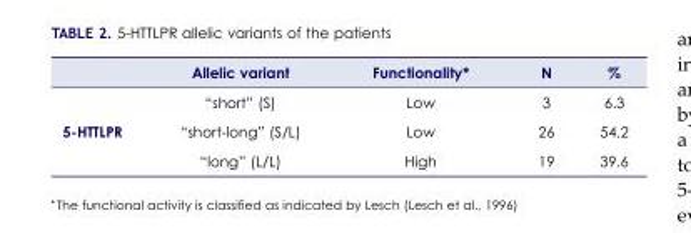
<table><thead><tr><td></td><td>Allelic variant</td><td>Functionality*</td><td>N</td><td>%</td></tr></thead><tbody><tr><td></td><td>“short” (S)</td><td>Low</td><td>3</td><td>6.3</td></tr><tr><td rowspan="2">5-HTTlPR</td><td>“short-long” (S/L)</td><td>Low</td><td>26</td><td>54.2</td></tr><tr><td>“long” (L/L)</td><td>High</td><td>19</td><td>39.6</td></tr></tbody></table>